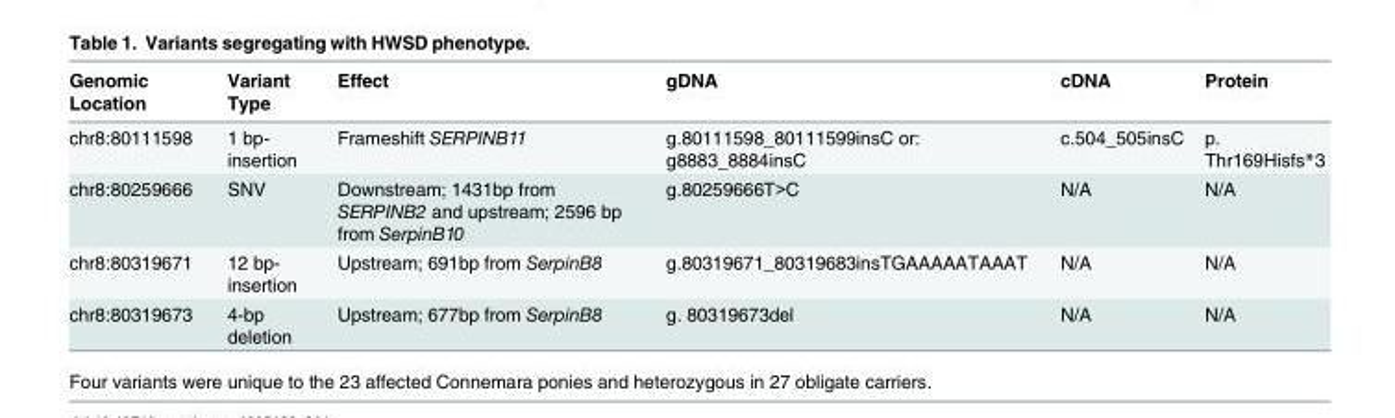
<table><thead><tr><td>Genomic Location</td><td>Variant Type</td><td>Effect</td><td>gDNA</td><td>cDNA</td><td>Protein</td></tr></thead><tbody><tr><td>chr8:80111598</td><td>1 bp- insertion</td><td>Frameshift SERPINB11</td><td>g.80111598_80111599insC or: g8883_8884insC</td><td>c.504_505insC</td><td>p. Thr169Hisfs*3</td></tr><tr><td>chr8:80259666</td><td>SNV</td><td>Downstream; 1431bp from SERPINB2 and upstream; 2596 bp from SerpinB10</td><td>g.80259666T&gt;C</td><td>N/A</td><td>N/A</td></tr><tr><td>chr8:80319671</td><td>12 bp- insertion</td><td>Upstream; 691bp from SerpinB8</td><td>g.80319671_80319683insTGAAAAATAAAT</td><td>N/A</td><td>N/A</td></tr><tr><td>chr8:80319673</td><td>4-bp deletion</td><td>Upstream; 677bp from SerpinB8</td><td>g. 80319673del</td><td>N/A</td><td>N/A</td></tr></tbody></table>